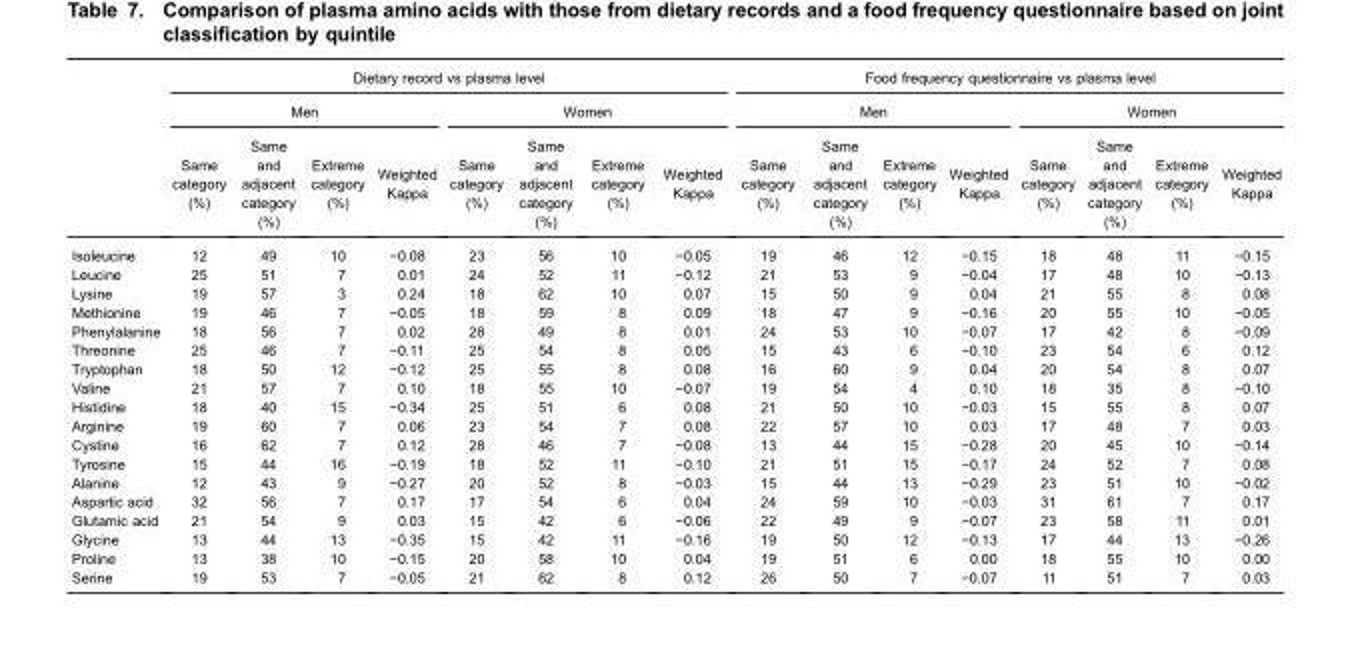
<table><thead><tr><td rowspan="3"></td><td colspan="8">Dietary record vs plasma level</td><td colspan="8">Food frequency questionnaire vs plasma level</td></tr><tr><td colspan="4">Men</td><td colspan="4">Women</td><td colspan="4">Men</td><td colspan="4">Women</td></tr><tr><td>Same category (%)</td><td>Same and adjacent category (%)</td><td>Extreme category (%)</td><td>Weighted Kappa</td><td>Same category (%)</td><td>Same and adjacent category (%)</td><td>Extreme category (%)</td><td>Weighted Kappa</td><td>Same category (%)</td><td>Same and adjacent category (%)</td><td>Extreme category (%)</td><td>Weighted Kappa</td><td>Same category (%)</td><td>Same and adjacent category (%)</td><td>Extreme category (%)</td><td>Weighted Kappa</td></tr></thead><tbody><tr><td>Isoleucine</td><td>12</td><td>49</td><td>10</td><td>−0.08</td><td>23</td><td>56</td><td>10</td><td>−0.05</td><td>19</td><td>46</td><td>12</td><td>−0.15</td><td>18</td><td>48</td><td>11</td><td>−0.15</td></tr><tr><td>Leucine</td><td>25</td><td>51</td><td>7</td><td>0.01</td><td>24</td><td>52</td><td>11</td><td>−0.12</td><td>21</td><td>53</td><td>9</td><td>−0.04</td><td>17</td><td>48</td><td>10</td><td>−0.13</td></tr><tr><td>Lysine</td><td>19</td><td>57</td><td>3</td><td>0.24</td><td>18</td><td>62</td><td>10</td><td>0.07</td><td>15</td><td>50</td><td>9</td><td>0.04</td><td>21</td><td>55</td><td>8</td><td>0.08</td></tr><tr><td>Methionine</td><td>19</td><td>46</td><td>7</td><td>−0.05</td><td>18</td><td>59</td><td>8</td><td>0.09</td><td>18</td><td>47</td><td>9</td><td>−0.16</td><td>20</td><td>55</td><td>10</td><td>−0.05</td></tr><tr><td>Phenylalanine</td><td>18</td><td>56</td><td>7</td><td>0.02</td><td>28</td><td>49</td><td>8</td><td>0.01</td><td>24</td><td>53</td><td>10</td><td>−0.07</td><td>17</td><td>42</td><td>8</td><td>−0.09</td></tr><tr><td>Threonine</td><td>25</td><td>46</td><td>7</td><td>−0.11</td><td>25</td><td>54</td><td>8</td><td>0.05</td><td>15</td><td>43</td><td>6</td><td>−0.10</td><td>23</td><td>54</td><td>6</td><td>0.12</td></tr><tr><td>Tryptophan</td><td>18</td><td>50</td><td>12</td><td>−0.12</td><td>25</td><td>55</td><td>8</td><td>0.08</td><td>16</td><td>60</td><td>9</td><td>0.04</td><td>20</td><td>54</td><td>8</td><td>0.07</td></tr><tr><td>Valine</td><td>21</td><td>57</td><td>7</td><td>0.10</td><td>18</td><td>55</td><td>10</td><td>−0.07</td><td>19</td><td>54</td><td>4</td><td>0.10</td><td>18</td><td>35</td><td>8</td><td>−0.10</td></tr><tr><td>Histidine</td><td>18</td><td>40</td><td>15</td><td>−0.34</td><td>25</td><td>51</td><td>6</td><td>0.08</td><td>21</td><td>50</td><td>10</td><td>−0.03</td><td>15</td><td>55</td><td>8</td><td>0.07</td></tr><tr><td>Arginine</td><td>19</td><td>60</td><td>7</td><td>0.06</td><td>23</td><td>54</td><td>7</td><td>0.08</td><td>22</td><td>57</td><td>10</td><td>0.03</td><td>17</td><td>48</td><td>7</td><td>0.03</td></tr><tr><td>Cystine</td><td>16</td><td>62</td><td>7</td><td>0.12</td><td>28</td><td>46</td><td>7</td><td>−0.08</td><td>13</td><td>44</td><td>15</td><td>−0.28</td><td>20</td><td>45</td><td>10</td><td>−0.14</td></tr><tr><td>Tyrosine</td><td>15</td><td>44</td><td>16</td><td>−0.19</td><td>18</td><td>52</td><td>11</td><td>−0.10</td><td>21</td><td>51</td><td>15</td><td>−0.17</td><td>24</td><td>52</td><td>7</td><td>0.08</td></tr><tr><td>Alanine</td><td>12</td><td>43</td><td>9</td><td>−0.27</td><td>20</td><td>52</td><td>8</td><td>−0.03</td><td>15</td><td>44</td><td>13</td><td>−0.29</td><td>23</td><td>51</td><td>10</td><td>−0.02</td></tr><tr><td>Aspartic acid</td><td>32</td><td>56</td><td>7</td><td>0.17</td><td>17</td><td>54</td><td>6</td><td>0.04</td><td>24</td><td>59</td><td>10</td><td>−0.03</td><td>31</td><td>61</td><td>7</td><td>0.17</td></tr><tr><td>Glutamic acid</td><td>21</td><td>54</td><td>9</td><td>0.03</td><td>15</td><td>42</td><td>6</td><td>−0.06</td><td>22</td><td>49</td><td>9</td><td>−0.07</td><td>23</td><td>58</td><td>11</td><td>0.01</td></tr><tr><td>Glycine</td><td>13</td><td>44</td><td>13</td><td>−0.35</td><td>15</td><td>42</td><td>11</td><td>−0.16</td><td>19</td><td>50</td><td>12</td><td>−0.13</td><td>17</td><td>44</td><td>13</td><td>−0.26</td></tr><tr><td>Proline</td><td>13</td><td>38</td><td>10</td><td>−0.15</td><td>20</td><td>58</td><td>10</td><td>0.04</td><td>19</td><td>51</td><td>6</td><td>0.00</td><td>18</td><td>55</td><td>10</td><td>0.00</td></tr><tr><td>Serine</td><td>19</td><td>53</td><td>7</td><td>−0.05</td><td>21</td><td>62</td><td>8</td><td>0.12</td><td>26</td><td>50</td><td>7</td><td>−0.07</td><td>11</td><td>51</td><td>7</td><td>0.03</td></tr></tbody></table>